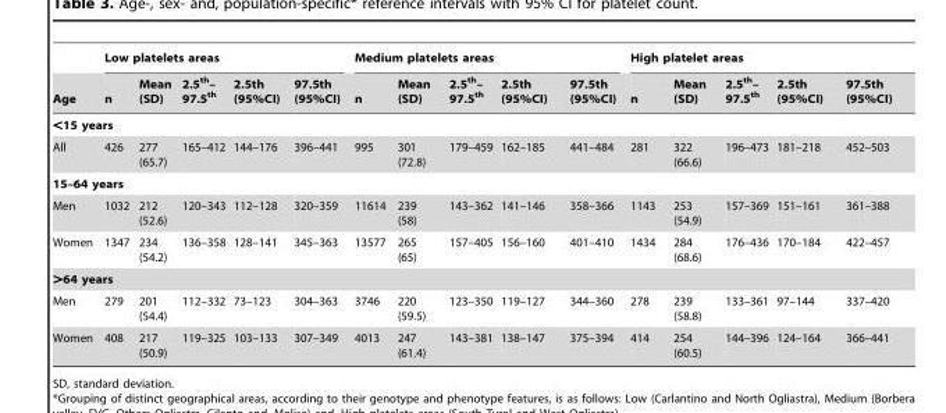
<table><thead><tr><td rowspan="2">Age</td><td colspan="5">Low platelets areas</td><td colspan="5">Medium platelets areas</td><td colspan="5">High platelet areas</td></tr><tr><td>n</td><td>Mean (SD)</td><td>2.5<sup>th</sup>– 97.5<sup>th</sup></td><td>2.5th (95%CI)</td><td>97.5th (95%CI)</td><td>n</td><td>Mean (SD)</td><td>2.5<sup>th</sup>– 97.5<sup>th</sup></td><td>2.5th (95%CI)</td><td>97.5th (95%CI)</td><td>n</td><td>Mean (SD)</td><td>2.5<sup>th</sup>– 97.5<sup>th</sup></td><td>2.5th (95%CI)</td><td>97.5th (95%CI)</td></tr></thead><tbody><tr><td colspan="16">&lt;15 years</td></tr><tr><td>All</td><td>426</td><td>277 (65.7)</td><td>165–412</td><td>144–176</td><td>396–441</td><td>995</td><td>301 (72.8)</td><td>179–459</td><td>162–185</td><td>441–484</td><td>281</td><td>322 (66.6)</td><td>196–473</td><td>181–218</td><td>452–503</td></tr><tr><td colspan="16">15–64 years</td></tr><tr><td>Men</td><td>1032</td><td>212 (52.6)</td><td>120–343</td><td>112–128</td><td>320–359</td><td>11614</td><td>239 (58)</td><td>143–362</td><td>141–146</td><td>358–366</td><td>1143</td><td>253 (54.9)</td><td>157–369</td><td>151–161</td><td>361–388</td></tr><tr><td>Women</td><td>1347</td><td>234 (54.2)</td><td>136–358</td><td>128–141</td><td>345–363</td><td>13577</td><td>265 (65)</td><td>157–405</td><td>156–160</td><td>401–410</td><td>1434</td><td>284 (68.6)</td><td>176–436</td><td>170–184</td><td>422–457</td></tr><tr><td colspan="16">&gt;64 years</td></tr><tr><td>Men</td><td>279</td><td>201 (54.4)</td><td>112–332</td><td>73–123</td><td>304–363</td><td>3746</td><td>220 (59.5)</td><td>123–350</td><td>119–127</td><td>344–360</td><td>278</td><td>239 (58.8)</td><td>133–361</td><td>97–144</td><td>337–420</td></tr><tr><td>Women</td><td>408</td><td>217 (50.9)</td><td>119–325</td><td>103–133</td><td>307–349</td><td>4013</td><td>247 (61.4)</td><td>143–381</td><td>138–147</td><td>375–394</td><td>414</td><td>254 (60.5)</td><td>144–396</td><td>124–164</td><td>366–441</td></tr></tbody></table>